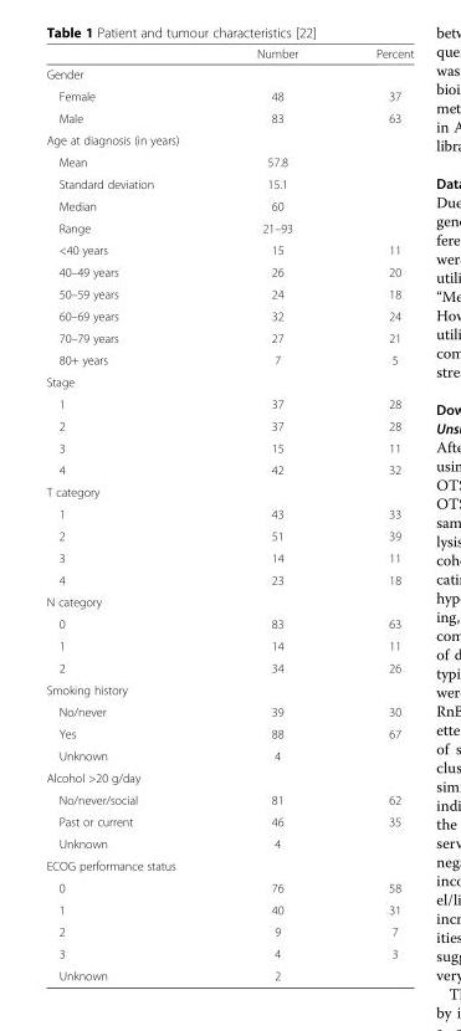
<table><thead><tr><td></td><td>Number</td><td>Percent</td></tr></thead><tbody><tr><td colspan="3">Gender</td></tr><tr><td>Female</td><td>48</td><td>37</td></tr><tr><td>Male</td><td>83</td><td>63</td></tr><tr><td colspan="3">Age at diagnosis (in years)</td></tr><tr><td>Mean</td><td>57.8</td><td></td></tr><tr><td>Standard deviation</td><td>15.1</td><td></td></tr><tr><td>Median</td><td>60</td><td></td></tr><tr><td>Range</td><td>21–93</td><td></td></tr><tr><td>&lt;40 years</td><td>15</td><td>11</td></tr><tr><td>40–49 years</td><td>26</td><td>20</td></tr><tr><td>50–59 years</td><td>24</td><td>18</td></tr><tr><td>60–69 years</td><td>32</td><td>24</td></tr><tr><td>70–79 years</td><td>27</td><td>21</td></tr><tr><td>80+ years</td><td>7</td><td>5</td></tr><tr><td colspan="3">Stage</td></tr><tr><td>1</td><td>37</td><td>28</td></tr><tr><td>2</td><td>37</td><td>28</td></tr><tr><td>3</td><td>15</td><td>11</td></tr><tr><td>4</td><td>42</td><td>32</td></tr><tr><td colspan="3">T category</td></tr><tr><td>1</td><td>43</td><td>33</td></tr><tr><td>2</td><td>51</td><td>39</td></tr><tr><td>3</td><td>14</td><td>11</td></tr><tr><td>4</td><td>23</td><td>18</td></tr><tr><td colspan="3">N category</td></tr><tr><td>0</td><td>83</td><td>63</td></tr><tr><td>1</td><td>14</td><td>11</td></tr><tr><td>2</td><td>34</td><td>26</td></tr><tr><td colspan="3">Smoking history</td></tr><tr><td>No/never</td><td>39</td><td>30</td></tr><tr><td>Yes</td><td>88</td><td>67</td></tr><tr><td>Unknown</td><td>4</td><td></td></tr><tr><td colspan="3">Alcohol &gt;20 g/day</td></tr><tr><td>No/never/social</td><td>81</td><td>62</td></tr><tr><td>Past or current</td><td>46</td><td>35</td></tr><tr><td>Unknown</td><td>4</td><td></td></tr><tr><td colspan="3">ECOG performance status</td></tr><tr><td>0</td><td>76</td><td>58</td></tr><tr><td>1</td><td>40</td><td>31</td></tr><tr><td>2</td><td>9</td><td>7</td></tr><tr><td>3</td><td>4</td><td>3</td></tr><tr><td>Unknown</td><td>2</td><td></td></tr></tbody></table>